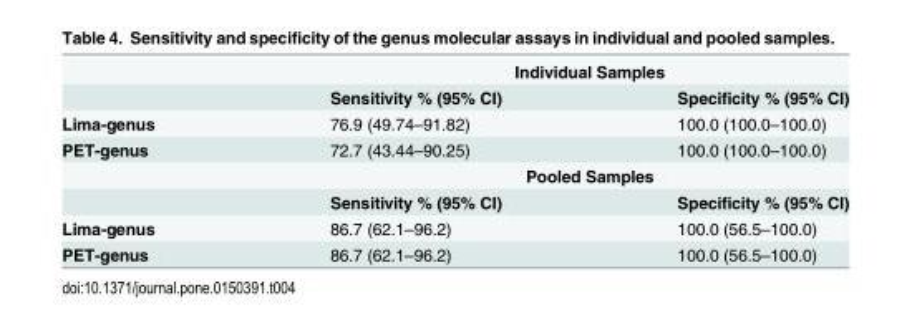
<table><thead><tr><td rowspan="2"></td><td colspan="2">Individual Samples</td></tr><tr><td>Sensitivity % (95% CI)</td><td>Specificity % (95% CI)</td></tr></thead><tbody><tr><td>Lima-genus</td><td>76.9 (49.74–91.82)</td><td>100.0 (100.0–100.0)</td></tr><tr><td rowspan="3">PET-genus</td><td>72.7 (43.44–90.25)</td><td>100.0 (100.0–100.0)</td></tr><tr><td colspan="2">Pooled Samples</td></tr><tr><td>Sensitivity % (95% CI)</td><td>Specificity % (95% CI)</td></tr><tr><td>Lima-genus</td><td>86.7 (62.1–96.2)</td><td>100.0 (56.5–100.0)</td></tr><tr><td>PET-genus</td><td>86.7 (62.1–96.2)</td><td>100.0 (56.5–100.0)</td></tr></tbody></table>